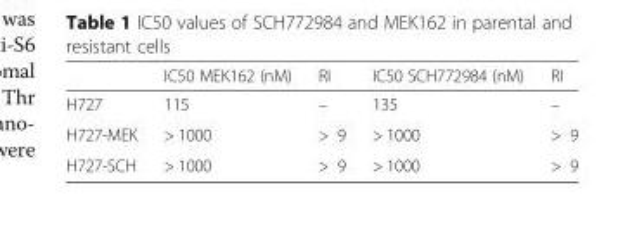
<table><thead><tr><td></td><td>IC50 MEK162 (nM)</td><td>RI</td><td>IC50 SCH772984 (nM)</td><td>RI</td></tr></thead><tbody><tr><td>H727</td><td>115</td><td>–</td><td>135</td><td>–</td></tr><tr><td>H727-MEK</td><td>&gt; 1000</td><td>&gt; 9</td><td>&gt; 1000</td><td>&gt; 9</td></tr><tr><td>H727-SCH</td><td>&gt; 1000</td><td>&gt; 9</td><td>&gt; 1000</td><td>&gt; 9</td></tr></tbody></table>